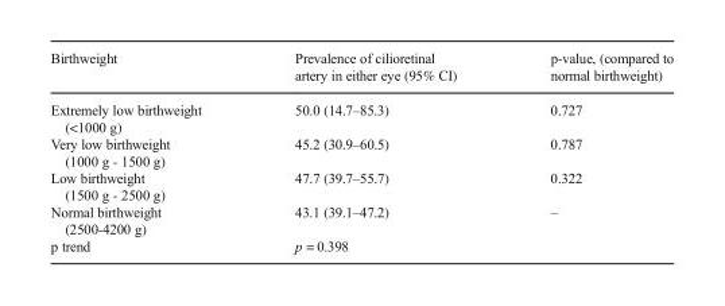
<table><thead><tr><td>Birthweight</td><td>Prevalence of cilioretinal artery in either eye (95% CI)</td><td>p-value, (compared to normal birthweight)</td></tr></thead><tbody><tr><td>Extremely low birthweight (&lt;1000 g)</td><td>50.0 (14.7–85.3)</td><td>0.727</td></tr><tr><td>Very low birthweight (1000 g - 1500 g)</td><td>45.2 (30.9–60.5)</td><td>0.787</td></tr><tr><td>Low birthweight (1500 g - 2500 g)</td><td>47.7 (39.7–55.7)</td><td>0.322</td></tr><tr><td>Normal birthweight (2500-4200 g)</td><td>43.1 (39.1–47.2)</td><td>–</td></tr><tr><td>p trend</td><td>p = 0.398</td><td></td></tr></tbody></table>